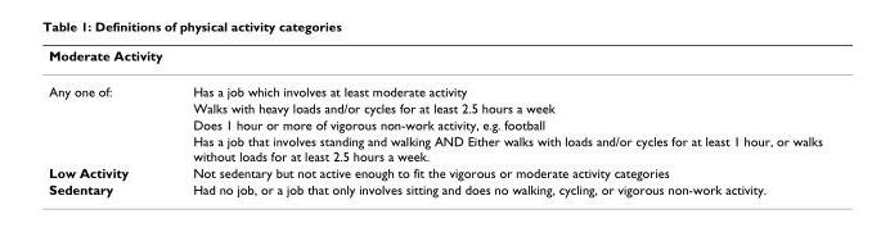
<table><thead><tr><td>Moderate Activity</td><td></td></tr></thead><tbody><tr><td rowspan="4">Any one of:</td><td>Has a job which involves at least moderate activity</td></tr><tr><td>Walks with heavy loads and/or cycles for at least 2.5 hours a week</td></tr><tr><td>Does 1 hour or more of vigorous non-work activity, e.g. football</td></tr><tr><td>Has a job that involves standing and walking AND Either walks with loads and/or cycles for at least 1 hour, or walks without loads for at least 2.5 hours a week.</td></tr><tr><td>Low Activity</td><td>Not sedentary but not active enough to fit the vigorous or moderate activity categories</td></tr><tr><td>Sedentary</td><td>Had no job, or a job that only involves sitting and does no walking, cycling, or vigorous non-work activity.</td></tr></tbody></table>